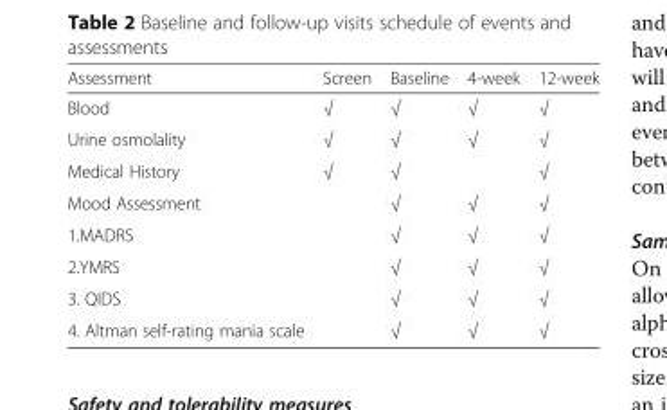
<table><thead><tr><td>Assessment</td><td>Screen</td><td>Baseline</td><td>4-week</td><td>12-week</td></tr></thead><tbody><tr><td>Blood</td><td>√</td><td>√</td><td>√</td><td>√</td></tr><tr><td>Urine osmolality</td><td>√</td><td>√</td><td>√</td><td>√</td></tr><tr><td>Medical History</td><td>√</td><td>√</td><td></td><td>√</td></tr><tr><td>Mood Assessment</td><td></td><td>√</td><td>√</td><td>√</td></tr><tr><td>1.MADRS</td><td></td><td>√</td><td>√</td><td>√</td></tr><tr><td>2.YMRS</td><td></td><td>√</td><td>√</td><td>√</td></tr><tr><td>3. QIDS</td><td></td><td>√</td><td>√</td><td>√</td></tr><tr><td>4. Altman self-rating mania scale</td><td></td><td>√</td><td>√</td><td>√</td></tr></tbody></table>